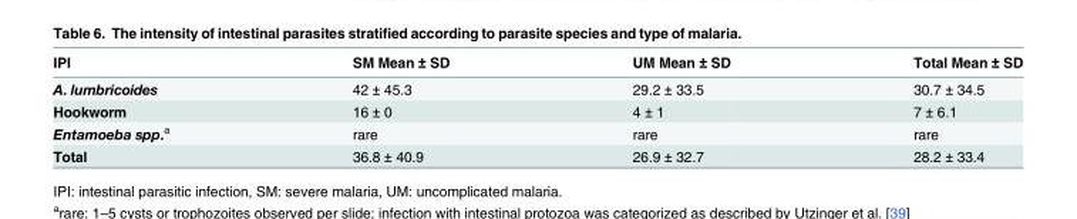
<table><thead><tr><td>IPI</td><td>SM Mean ± SD</td><td>UM Mean ± SD</td><td>Total Mean ± SD</td></tr></thead><tbody><tr><td>A. lumbricoides</td><td>42 ± 45.3</td><td>29.2 ± 33.5</td><td>30.7 ± 34.5</td></tr><tr><td>Hookworm</td><td>16 ± 0</td><td>4 ± 1</td><td>7 ± 6.1</td></tr><tr><td>Entamoeba spp.<sup>a</sup></td><td>rare</td><td>rare</td><td>rare</td></tr><tr><td>Total</td><td>36.8 ± 40.9</td><td>26.9 ± 32.7</td><td>28.2 ± 33.4</td></tr></tbody></table>